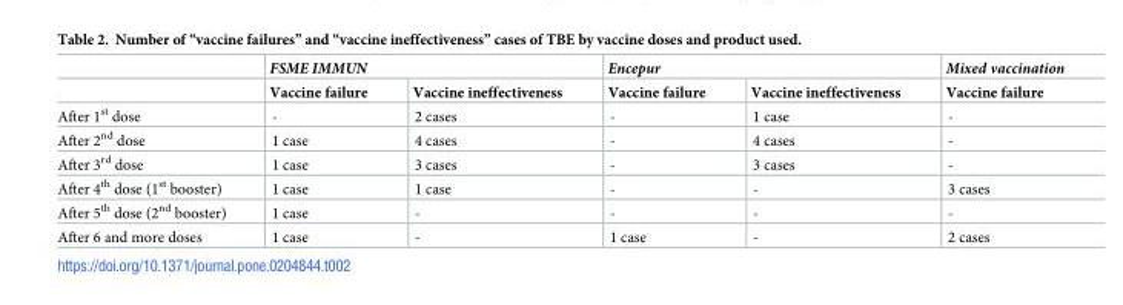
<table><thead><tr><td rowspan="2"></td><td colspan="2">FSME IMMUN</td><td colspan="2">Encepur</td><td rowspan="2">Mixed vaccination Vaccine failure</td></tr><tr><td>Vaccine failure</td><td>Vaccine ineffectiveness</td><td>Vaccine failure</td><td>Vaccine ineffectiveness</td></tr></thead><tbody><tr><td>After 1<sup>st</sup> dose</td><td>-</td><td>2 cases</td><td>-</td><td>1 case</td><td>-</td></tr><tr><td>After 2<sup>nd</sup> dose</td><td>1 case</td><td>4 cases</td><td>-</td><td>4 cases</td><td>-</td></tr><tr><td>After 3<sup>rd</sup> dose</td><td>1 case</td><td>3 cases</td><td>-</td><td>3 cases</td><td>-</td></tr><tr><td>After 4<sup>th</sup> dose (1<sup>st</sup> booster)</td><td>1 case</td><td>1 case</td><td>-</td><td>-</td><td>3 cases</td></tr><tr><td>After 5<sup>th</sup> dose (2<sup>nd</sup> booster)</td><td>1 case</td><td>-</td><td>-</td><td>-</td><td>-</td></tr><tr><td>After 6 and more doses</td><td>1 case</td><td>-</td><td>1 case</td><td>-</td><td>2 cases</td></tr></tbody></table>